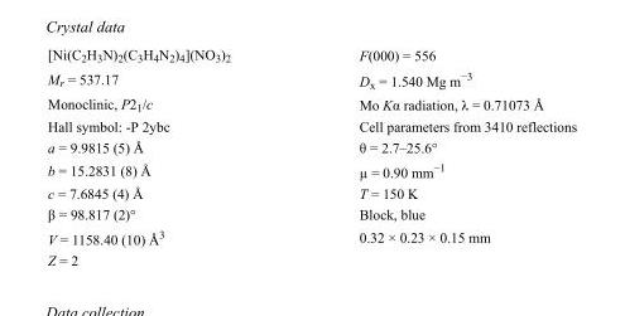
<table><tbody><tr><td>[Ni(C<sub>2</sub>H<sub>3</sub>N)<sub>2</sub>(C<sub>3</sub>H<sub>4</sub>N<sub>2</sub>)<sub>4</sub>](NO<sub>3</sub>)<sub>2</sub></td><td>F(000) = 556</td></tr><tr><td>M<sub>r</sub> = 537.17</td><td>D<sub>x</sub> = 1.540 Mg m<sup>−3</sup></td></tr><tr><td>Monoclinic, P2<sub>1</sub>/c</td><td>Mo Kα radiation, λ = 0.71073 Å</td></tr><tr><td>Hall symbol: -P 2ybc</td><td>Cell parameters from 3410 reflections</td></tr><tr><td>a = 9.9815 (5) Å</td><td>θ = 2.7–25.6°</td></tr><tr><td>b = 15.2831 (8) Å</td><td>µ = 0.90 mm<sup>−1</sup></td></tr><tr><td>c = 7.6845 (4) Å</td><td>T = 150 K</td></tr><tr><td>β = 98.817 (2)°</td><td>Block, blue</td></tr><tr><td>V = 1158.40 (10) Å<sup>3</sup></td><td>0.32 × 0.23 × 0.15 mm</td></tr><tr><td>Z = 2</td><td></td></tr></tbody></table>